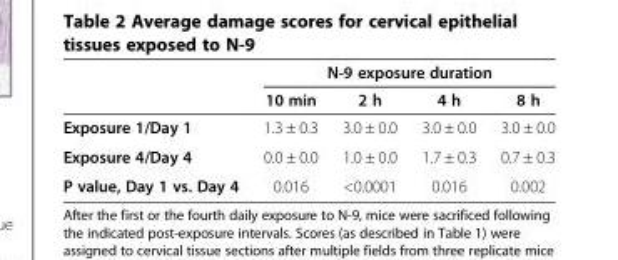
<table><thead><tr><td rowspan="2"></td><td colspan="4">N-9 exposure duration</td></tr><tr><td>10 min</td><td>2 h</td><td>4 h</td><td>8 h</td></tr></thead><tbody><tr><td>Exposure 1/Day 1</td><td>1.3 ± 0.3</td><td>3.0 ± 0.0</td><td>3.0 ± 0.0</td><td>3.0 ± 0.0</td></tr><tr><td>Exposure 4/Day 4</td><td>0.0 ± 0.0</td><td>1.0 ± 0.0</td><td>1.7 ± 0.3</td><td>0.7 ± 0.3</td></tr><tr><td>P value, Day 1 vs. Day 4</td><td>0.016</td><td>&lt;0.0001</td><td>0.016</td><td>0.002</td></tr></tbody></table>